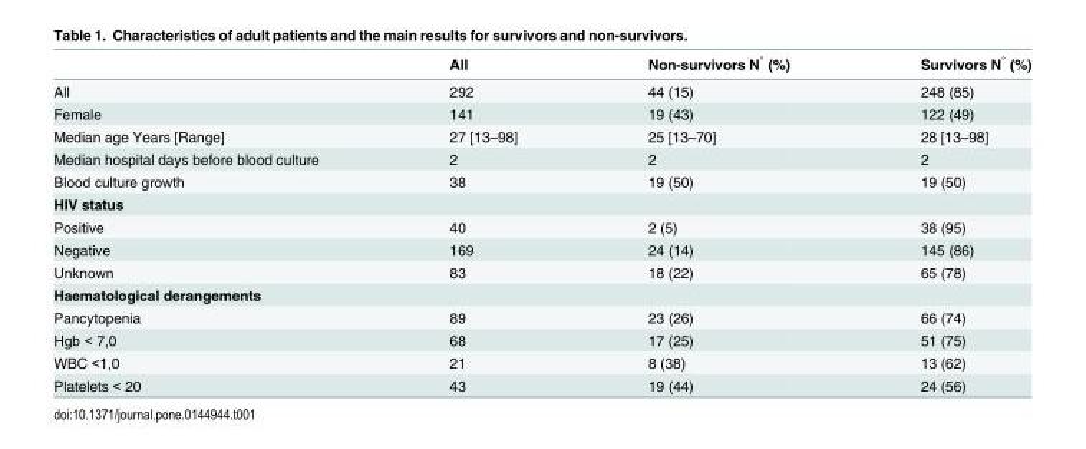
<table><thead><tr><td></td><td>All</td><td>Non-survivors N<sup>°</sup> (%)</td><td>Survivors N<sup>°</sup> (%)</td></tr></thead><tbody><tr><td>All</td><td>292</td><td>44 (15)</td><td>248 (85)</td></tr><tr><td>Female</td><td>141</td><td>19 (43)</td><td>122 (49)</td></tr><tr><td>Median age Years [Range]</td><td>27 [13–98]</td><td>25 [13–70]</td><td>28 [13–98]</td></tr><tr><td>Median hospital days before blood culture</td><td>2</td><td>2</td><td>2</td></tr><tr><td>Blood culture growth</td><td>38</td><td>19 (50)</td><td>19 (50)</td></tr><tr><td colspan="4">HIV status</td></tr><tr><td>Positive</td><td>40</td><td>2 (5)</td><td>38 (95)</td></tr><tr><td>Negative</td><td>169</td><td>24 (14)</td><td>145 (86)</td></tr><tr><td>Unknown</td><td>83</td><td>18 (22)</td><td>65 (78)</td></tr><tr><td colspan="4">Haematological derangements</td></tr><tr><td>Pancytopenia</td><td>89</td><td>23 (26)</td><td>66 (74)</td></tr><tr><td>Hgb &lt; 7,0</td><td>68</td><td>17 (25)</td><td>51 (75)</td></tr><tr><td>WBC &lt;1,0</td><td>21</td><td>8 (38)</td><td>13 (62)</td></tr><tr><td>Platelets &lt; 20</td><td>43</td><td>19 (44)</td><td>24 (56)</td></tr></tbody></table>